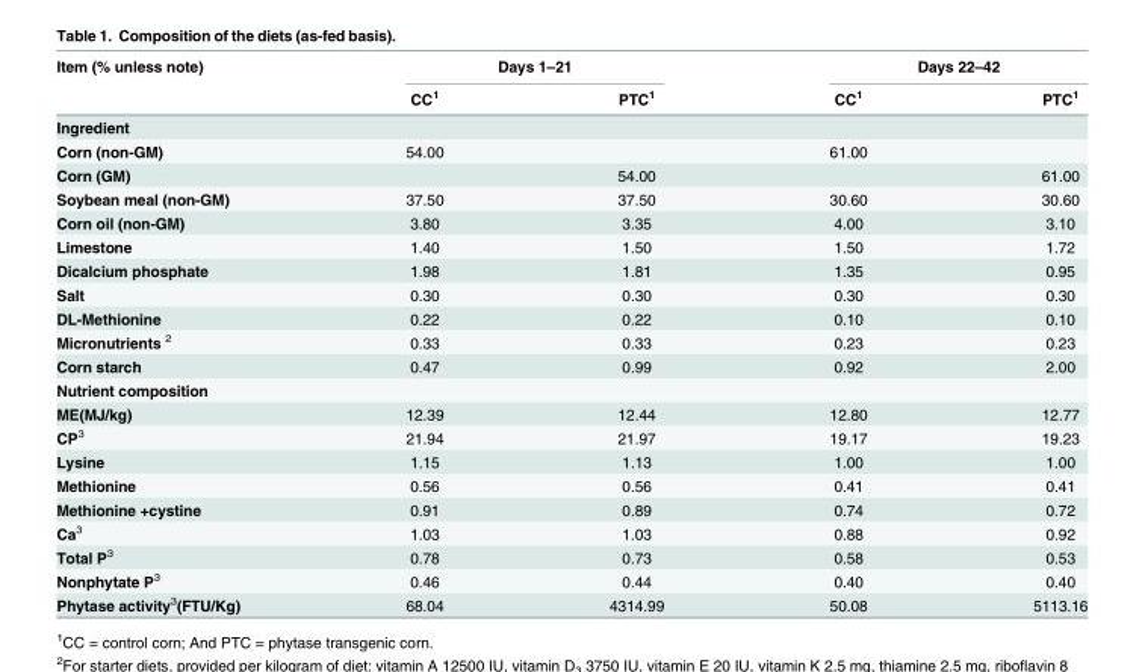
<table><thead><tr><td rowspan="2">Item (% unless note)</td><td colspan="2">Days 1–21</td><td colspan="2">Days 22–42</td></tr><tr><td>CC<sup>1</sup></td><td>PTC<sup>1</sup></td><td>CC<sup>1</sup></td><td>PTC<sup>1</sup></td></tr></thead><tbody><tr><td colspan="5">Ingredient</td></tr><tr><td>Corn (non-GM)</td><td>54.00</td><td></td><td>61.00</td><td></td></tr><tr><td>Corn (GM)</td><td></td><td>54.00</td><td></td><td>61.00</td></tr><tr><td>Soybean meal (non-GM)</td><td>37.50</td><td>37.50</td><td>30.60</td><td>30.60</td></tr><tr><td>Corn oil (non-GM)</td><td>3.80</td><td>3.35</td><td>4.00</td><td>3.10</td></tr><tr><td>Limestone</td><td>1.40</td><td>1.50</td><td>1.50</td><td>1.72</td></tr><tr><td>Dicalcium phosphate</td><td>1.98</td><td>1.81</td><td>1.35</td><td>0.95</td></tr><tr><td>Salt</td><td>0.30</td><td>0.30</td><td>0.30</td><td>0.30</td></tr><tr><td>DL-Methionine</td><td>0.22</td><td>0.22</td><td>0.10</td><td>0.10</td></tr><tr><td>Micronutrients <sup>2</sup></td><td>0.33</td><td>0.33</td><td>0.23</td><td>0.23</td></tr><tr><td>Corn starch</td><td>0.47</td><td>0.99</td><td>0.92</td><td>2.00</td></tr><tr><td colspan="5">Nutrient composition</td></tr><tr><td>ME(MJ/kg)</td><td>12.39</td><td>12.44</td><td>12.80</td><td>12.77</td></tr><tr><td>CP<sup>3</sup></td><td>21.94</td><td>21.97</td><td>19.17</td><td>19.23</td></tr><tr><td>Lysine</td><td>1.15</td><td>1.13</td><td>1.00</td><td>1.00</td></tr><tr><td>Methionine</td><td>0.56</td><td>0.56</td><td>0.41</td><td>0.41</td></tr><tr><td>Methionine +cystine</td><td>0.91</td><td>0.89</td><td>0.74</td><td>0.72</td></tr><tr><td>Ca<sup>3</sup></td><td>1.03</td><td>1.03</td><td>0.88</td><td>0.92</td></tr><tr><td>Total P<sup>3</sup></td><td>0.78</td><td>0.73</td><td>0.58</td><td>0.53</td></tr><tr><td>Nonphytate P<sup>3</sup></td><td>0.46</td><td>0.44</td><td>0.40</td><td>0.40</td></tr><tr><td>Phytase activity<sup>3</sup>(FTU/Kg)</td><td>68.04</td><td>4314.99</td><td>50.08</td><td>5113.16</td></tr></tbody></table>